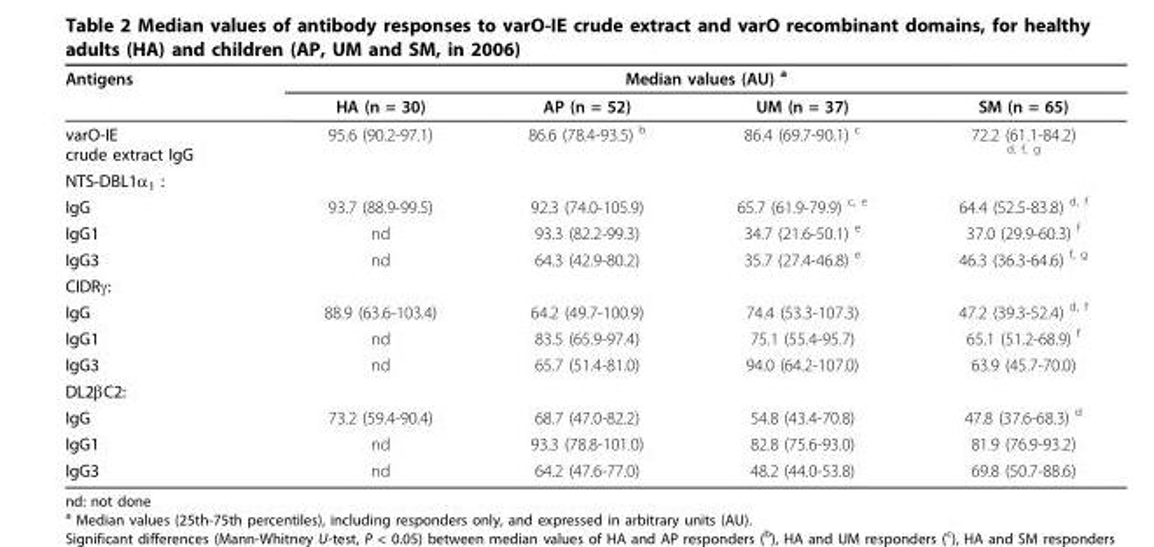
<table><thead><tr><td rowspan="2">Antigens</td><td colspan="4">Median values (AU) <sup>a</sup></td></tr><tr><td>HA (n = 30)</td><td>AP (n = 52)</td><td>UM (n = 37)</td><td>SM (n = 65)</td></tr></thead><tbody><tr><td>varO-IE crude extract IgG</td><td>95.6 (90.2-97.1)</td><td>86.6 (78.4-93.5) <sup>b</sup></td><td>86.4 (69.7-90.1) <sup>c</sup></td><td>72.2 (61.1-84.2) <sup>d, f, g</sup></td></tr><tr><td colspan="5">NTS-DBL1α<sub>1</sub> :</td></tr><tr><td>IgG</td><td>93.7 (88.9-99.5)</td><td>92.3 (74.0-105.9)</td><td>65.7 (61.9-79.9) <sup>c, e</sup></td><td>64.4 (52.5-83.8) <sup>d, f</sup></td></tr><tr><td>IgG1</td><td>nd</td><td>93.3 (82.2-99.3)</td><td>34.7 (21.6-50.1) <sup>e</sup></td><td>37.0 (29.9-60.3) <sup>f</sup></td></tr><tr><td>IgG3</td><td>nd</td><td>64.3 (42.9-80.2)</td><td>35.7 (27.4-46.8) <sup>e</sup></td><td>46.3 (36.3-64.6) <sup>f, g</sup></td></tr><tr><td colspan="5">CIDRγ:</td></tr><tr><td>IgG</td><td>88.9 (63.6-103.4)</td><td>64.2 (49.7-100.9)</td><td>74.4 (53.3-107.3)</td><td>47.2 (39.3-52.4) <sup>d, f</sup></td></tr><tr><td>IgG1</td><td>nd</td><td>83.5 (65.9-97.4)</td><td>75.1 (55.4-95.7)</td><td>65.1 (51.2-68.9) <sup>f</sup></td></tr><tr><td>IgG3</td><td>nd</td><td>65.7 (51.4-81.0)</td><td>94.0 (64.2-107.0)</td><td>63.9 (45.7-70.0)</td></tr><tr><td colspan="5">DL2βC2:</td></tr><tr><td>IgG</td><td>73.2 (59.4-90.4)</td><td>68.7 (47.0-82.2)</td><td>54.8 (43.4-70.8)</td><td>47.8 (37.6-68.3) <sup>d</sup></td></tr><tr><td>IgG1</td><td>nd</td><td>93.3 (78.8-101.0)</td><td>82.8 (75.6-93.0)</td><td>81.9 (76.9-93.2)</td></tr><tr><td>IgG3</td><td>nd</td><td>64.2 (47.6-77.0)</td><td>48.2 (44.0-53.8)</td><td>69.8 (50.7-88.6)</td></tr></tbody></table>